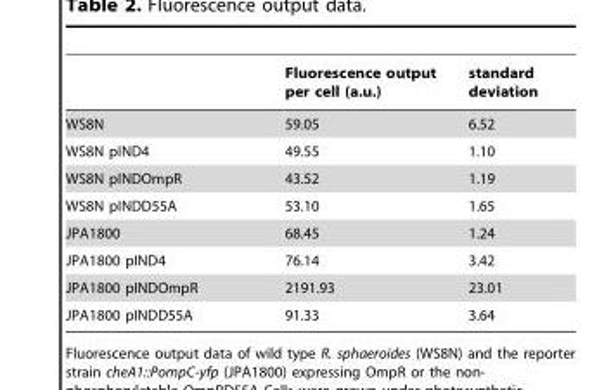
<table><thead><tr><td></td><td>Fluorescence output per cell (a.u.)</td><td>standard deviation</td></tr></thead><tbody><tr><td>WS8N</td><td>59.05</td><td>6.52</td></tr><tr><td>WS8N pIND4</td><td>49.55</td><td>1.10</td></tr><tr><td>WS8N pINDOmpR</td><td>43.52</td><td>1.19</td></tr><tr><td>WS8N pINDD55A</td><td>53.10</td><td>1.65</td></tr><tr><td>JPA1800</td><td>68.45</td><td>1.24</td></tr><tr><td>JPA1800 pIND4</td><td>76.14</td><td>3.42</td></tr><tr><td>JPA1800 pINDOmpR</td><td>2191.93</td><td>23.01</td></tr><tr><td>JPA1800 pINDD55A</td><td>91.33</td><td>3.64</td></tr></tbody></table>